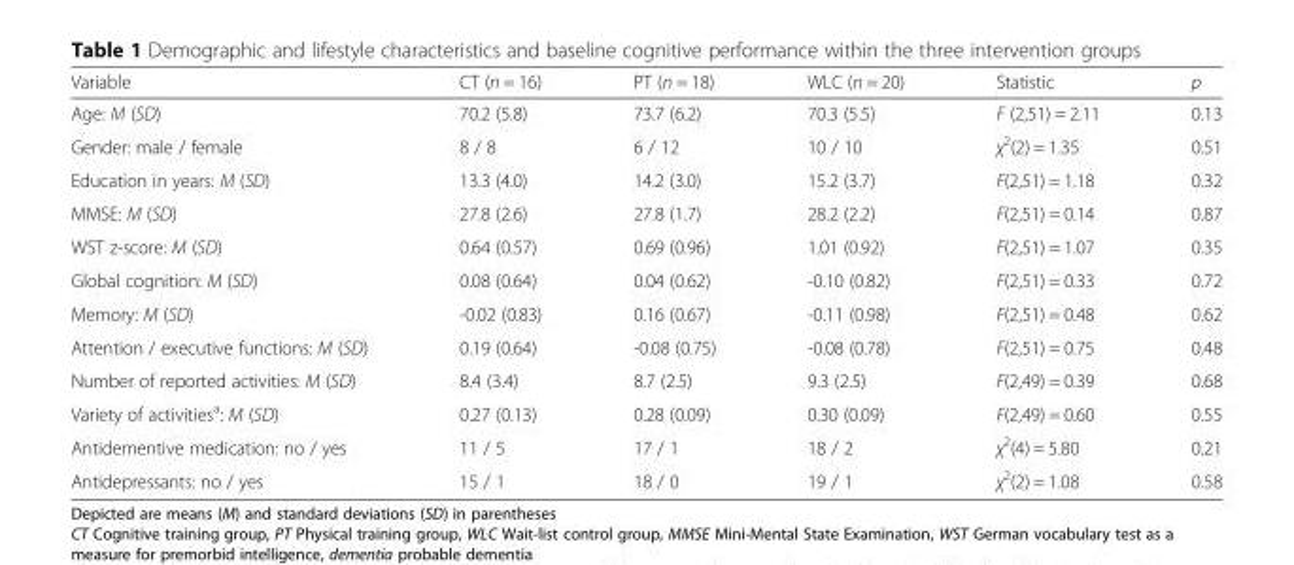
<table><thead><tr><td>Variable</td><td>CT (n = 16)</td><td>PT (n = 18)</td><td>WLC (n = 20)</td><td>Statistic</td><td>p</td></tr></thead><tbody><tr><td>Age: M (SD)</td><td>70.2 (5.8)</td><td>73.7 (6.2)</td><td>70.3 (5.5)</td><td>F (2,51) = 2.11</td><td>0.13</td></tr><tr><td>Gender: male / female</td><td>8 / 8</td><td>6 / 12</td><td>10 / 10</td><td>χ<sup>2</sup>(2) = 1.35</td><td>0.51</td></tr><tr><td>Education in years: M (SD)</td><td>13.3 (4.0)</td><td>14.2 (3.0)</td><td>15.2 (3.7)</td><td>F(2,51) = 1.18</td><td>0.32</td></tr><tr><td>MMSE: M (SD)</td><td>27.8 (2.6)</td><td>27.8 (1.7)</td><td>28.2 (2.2)</td><td>F(2,51) = 0.14</td><td>0.87</td></tr><tr><td>WST z-score: M (SD)</td><td>0.64 (0.57)</td><td>0.69 (0.96)</td><td>1.01 (0.92)</td><td>F(2,51) = 1.07</td><td>0.35</td></tr><tr><td>Global cognition: M (SD)</td><td>0.08 (0.64)</td><td>0.04 (0.62)</td><td>-0.10 (0.82)</td><td>F(2,51) = 0.33</td><td>0.72</td></tr><tr><td>Memory: M (SD)</td><td>-0.02 (0.83)</td><td>0.16 (0.67)</td><td>-0.11 (0.98)</td><td>F(2,51) = 0.48</td><td>0.62</td></tr><tr><td>Attention / executive functions: M (SD)</td><td>0.19 (0.64)</td><td>-0.08 (0.75)</td><td>-0.08 (0.78)</td><td>F(2,51) = 0.75</td><td>0.48</td></tr><tr><td>Number of reported activities: M (SD)</td><td>8.4 (3.4)</td><td>8.7 (2.5)</td><td>9.3 (2.5)</td><td>F(2,49) = 0.39</td><td>0.68</td></tr><tr><td>Variety of activities<sup>a</sup>: M (SD)</td><td>0.27 (0.13)</td><td>0.28 (0.09)</td><td>0.30 (0.09)</td><td>F(2,49) = 0.60</td><td>0.55</td></tr><tr><td>Antidementive medication: no / yes</td><td>11 / 5</td><td>17 / 1</td><td>18 / 2</td><td>χ<sup>2</sup>(4) = 5.80</td><td>0.21</td></tr><tr><td>Antidepressants: no / yes</td><td>15 / 1</td><td>18 / 0</td><td>19 / 1</td><td>χ<sup>2</sup>(2) = 1.08</td><td>0.58</td></tr></tbody></table>